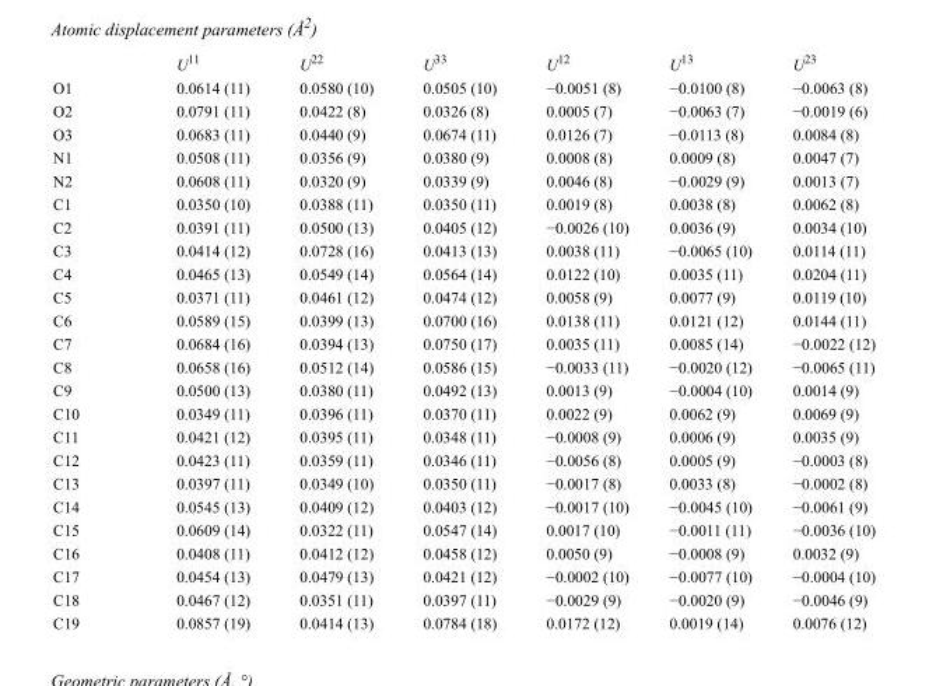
<table><thead><tr><td></td><td>U<sup>11</sup></td><td>U<sup>22</sup></td><td>U<sup>33</sup></td><td>U<sup>12</sup></td><td>U<sup>13</sup></td><td>U<sup>23</sup></td></tr></thead><tbody><tr><td>O1</td><td>0.0614 (11)</td><td>0.0580 (10)</td><td>0.0505 (10)</td><td>−0.0051 (8)</td><td>−0.0100 (8)</td><td>−0.0063 (8)</td></tr><tr><td>O2</td><td>0.0791 (11)</td><td>0.0422 (8)</td><td>0.0326 (8)</td><td>0.0005 (7)</td><td>−0.0063 (7)</td><td>−0.0019 (6)</td></tr><tr><td>O3</td><td>0.0683 (11)</td><td>0.0440 (9)</td><td>0.0674 (11)</td><td>0.0126 (7)</td><td>−0.0113 (8)</td><td>0.0084 (8)</td></tr><tr><td>N1</td><td>0.0508 (11)</td><td>0.0356 (9)</td><td>0.0380 (9)</td><td>0.0008 (8)</td><td>0.0009 (8)</td><td>0.0047 (7)</td></tr><tr><td>N2</td><td>0.0608 (11)</td><td>0.0320 (9)</td><td>0.0339 (9)</td><td>0.0046 (8)</td><td>−0.0029 (9)</td><td>0.0013 (7)</td></tr><tr><td>C1</td><td>0.0350 (10)</td><td>0.0388 (11)</td><td>0.0350 (11)</td><td>0.0019 (8)</td><td>0.0038 (8)</td><td>0.0062 (8)</td></tr><tr><td>C2</td><td>0.0391 (11)</td><td>0.0500 (13)</td><td>0.0405 (12)</td><td>−0.0026 (10)</td><td>0.0036 (9)</td><td>0.0034 (10)</td></tr><tr><td>C3</td><td>0.0414 (12)</td><td>0.0728 (16)</td><td>0.0413 (13)</td><td>0.0038 (11)</td><td>−0.0065 (10)</td><td>0.0114 (11)</td></tr><tr><td>C4</td><td>0.0465 (13)</td><td>0.0549 (14)</td><td>0.0564 (14)</td><td>0.0122 (10)</td><td>0.0035 (11)</td><td>0.0204 (11)</td></tr><tr><td>C5</td><td>0.0371 (11)</td><td>0.0461 (12)</td><td>0.0474 (12)</td><td>0.0058 (9)</td><td>0.0077 (9)</td><td>0.0119 (10)</td></tr><tr><td>C6</td><td>0.0589 (15)</td><td>0.0399 (13)</td><td>0.0700 (16)</td><td>0.0138 (11)</td><td>0.0121 (12)</td><td>0.0144 (11)</td></tr><tr><td>C7</td><td>0.0684 (16)</td><td>0.0394 (13)</td><td>0.0750 (17)</td><td>0.0035 (11)</td><td>0.0085 (14)</td><td>−0.0022 (12)</td></tr><tr><td>C8</td><td>0.0658 (16)</td><td>0.0512 (14)</td><td>0.0586 (15)</td><td>−0.0033 (11)</td><td>−0.0020 (12)</td><td>−0.0065 (11)</td></tr><tr><td>C9</td><td>0.0500 (13)</td><td>0.0380 (11)</td><td>0.0492 (13)</td><td>0.0013 (9)</td><td>−0.0004 (10)</td><td>0.0014 (9)</td></tr><tr><td>C10</td><td>0.0349 (11)</td><td>0.0396 (11)</td><td>0.0370 (11)</td><td>0.0022 (9)</td><td>0.0062 (9)</td><td>0.0069 (9)</td></tr><tr><td>C11</td><td>0.0421 (12)</td><td>0.0395 (11)</td><td>0.0348 (11)</td><td>−0.0008 (9)</td><td>0.0006 (9)</td><td>0.0035 (9)</td></tr><tr><td>C12</td><td>0.0423 (11)</td><td>0.0359 (11)</td><td>0.0346 (11)</td><td>−0.0056 (8)</td><td>0.0005 (9)</td><td>−0.0003 (8)</td></tr><tr><td>C13</td><td>0.0397 (11)</td><td>0.0349 (10)</td><td>0.0350 (11)</td><td>−0.0017 (8)</td><td>0.0033 (8)</td><td>−0.0002 (8)</td></tr><tr><td>C14</td><td>0.0545 (13)</td><td>0.0409 (12)</td><td>0.0403 (12)</td><td>−0.0017 (10)</td><td>−0.0045 (10)</td><td>−0.0061 (9)</td></tr><tr><td>C15</td><td>0.0609 (14)</td><td>0.0322 (11)</td><td>0.0547 (14)</td><td>0.0017 (10)</td><td>−0.0011 (11)</td><td>−0.0036 (10)</td></tr><tr><td>C16</td><td>0.0408 (11)</td><td>0.0412 (12)</td><td>0.0458 (12)</td><td>0.0050 (9)</td><td>−0.0008 (9)</td><td>0.0032 (9)</td></tr><tr><td>C17</td><td>0.0454 (13)</td><td>0.0479 (13)</td><td>0.0421 (12)</td><td>−0.0002 (10)</td><td>−0.0077 (10)</td><td>−0.0004 (10)</td></tr><tr><td>C18</td><td>0.0467 (12)</td><td>0.0351 (11)</td><td>0.0397 (11)</td><td>−0.0029 (9)</td><td>−0.0020 (9)</td><td>−0.0046 (9)</td></tr><tr><td>C19</td><td>0.0857 (19)</td><td>0.0414 (13)</td><td>0.0784 (18)</td><td>0.0172 (12)</td><td>0.0019 (14)</td><td>0.0076 (12)</td></tr></tbody></table>